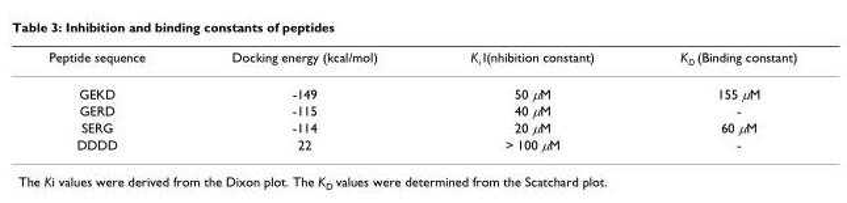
<table><thead><tr><td>Peptide sequence</td><td>Docking energy (kcal/mol)</td><td>K<sub>i</sub> I(nhibition constant)</td><td>K<sub>D</sub> (Binding constant)</td></tr></thead><tbody><tr><td>GEKD</td><td>-149</td><td>50 µM</td><td>155 µM</td></tr><tr><td>GERD</td><td>-115</td><td>40 µM</td><td>-</td></tr><tr><td>SERG</td><td>-114</td><td>20 µM</td><td>60 µM</td></tr><tr><td>DDDD</td><td>22</td><td>&gt; 100 µM</td><td>-</td></tr></tbody></table>